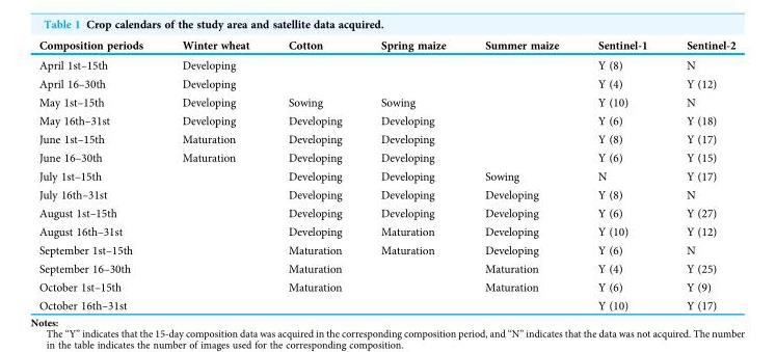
<table><thead><tr><td>Composition periods</td><td>Winter wheat</td><td>Cotton</td><td>Spring maize</td><td>Summer maize</td><td>Sentinel-1</td><td>Sentinel-2</td></tr></thead><tbody><tr><td>April 1st–15th</td><td>Developing</td><td></td><td></td><td></td><td>Y (8)</td><td>N</td></tr><tr><td>April 16–30th</td><td>Developing</td><td></td><td></td><td></td><td>Y (4)</td><td>Y (12)</td></tr><tr><td>May 1st–15th</td><td>Developing</td><td>Sowing</td><td>Sowing</td><td></td><td>Y (10)</td><td>N</td></tr><tr><td>May 16th–31st</td><td>Developing</td><td>Developing</td><td>Developing</td><td></td><td>Y (6)</td><td>Y (18)</td></tr><tr><td>June 1st–15th</td><td>Maturation</td><td>Developing</td><td>Developing</td><td></td><td>Y (8)</td><td>Y (17)</td></tr><tr><td>June 16–30th</td><td>Maturation</td><td>Developing</td><td>Developing</td><td></td><td>Y (6)</td><td>Y (15)</td></tr><tr><td>July 1st–15th</td><td></td><td>Developing</td><td>Developing</td><td>Sowing</td><td>N</td><td>Y (17)</td></tr><tr><td>July 16th–31st</td><td></td><td>Developing</td><td>Developing</td><td>Developing</td><td>Y (8)</td><td>N</td></tr><tr><td>August 1st–15th</td><td></td><td>Developing</td><td>Developing</td><td>Developing</td><td>Y (6)</td><td>Y (27)</td></tr><tr><td>August 16th–31st</td><td></td><td>Developing</td><td>Maturation</td><td>Developing</td><td>Y (10)</td><td>Y (12)</td></tr><tr><td>September 1st–15th</td><td></td><td>Maturation</td><td>Maturation</td><td>Developing</td><td>Y (6)</td><td>N</td></tr><tr><td>September 16–30th</td><td></td><td>Maturation</td><td></td><td>Maturation</td><td>Y (4)</td><td>Y (25)</td></tr><tr><td>October 1st–15th</td><td></td><td>Maturation</td><td></td><td>Maturation</td><td>Y (6)</td><td>Y (9)</td></tr><tr><td>October 16th–31st</td><td></td><td></td><td></td><td></td><td>Y (10)</td><td>Y (17)</td></tr></tbody></table>